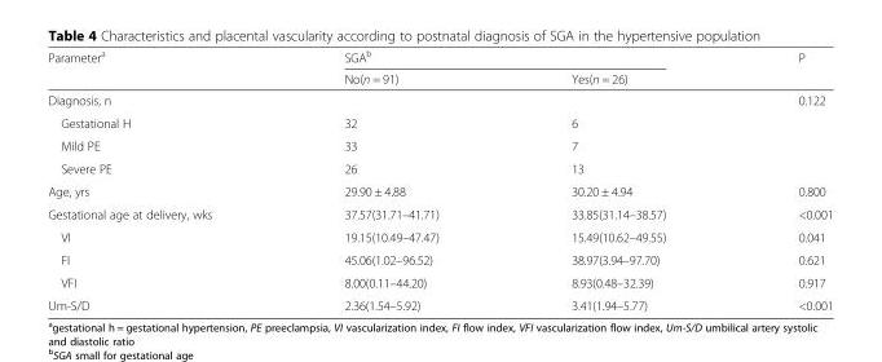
<table><thead><tr><td rowspan="2">Parameter<sup>a</sup></td><td colspan="2">SGA<sup>b</sup></td><td rowspan="2">P</td></tr><tr><td>No(n = 91)</td><td>Yes(n = 26)</td></tr></thead><tbody><tr><td>Diagnosis, n</td><td></td><td></td><td>0.122</td></tr><tr><td>Gestational H</td><td>32</td><td>6</td><td></td></tr><tr><td>Mild PE</td><td>33</td><td>7</td><td></td></tr><tr><td>Severe PE</td><td>26</td><td>13</td><td></td></tr><tr><td>Age, yrs</td><td>29.90 ± 4.88</td><td>30.20 ± 4.94</td><td>0.800</td></tr><tr><td>Gestational age at delivery, wks</td><td>37.57(31.71–41.71)</td><td>33.85(31.14–38.57)</td><td>&lt;0.001</td></tr><tr><td>VI</td><td>19.15(10.49–47.47)</td><td>15.49(10.62–49.55)</td><td>0.041</td></tr><tr><td>FI</td><td>45.06(1.02–96.52)</td><td>38.97(3.94–97.70)</td><td>0.621</td></tr><tr><td>VFI</td><td>8.00(0.11–44.20)</td><td>8.93(0.48–32.39)</td><td>0.917</td></tr><tr><td>Um-S/D</td><td>2.36(1.54–5.92)</td><td>3.41(1.94–5.77)</td><td>&lt;0.001</td></tr></tbody></table>